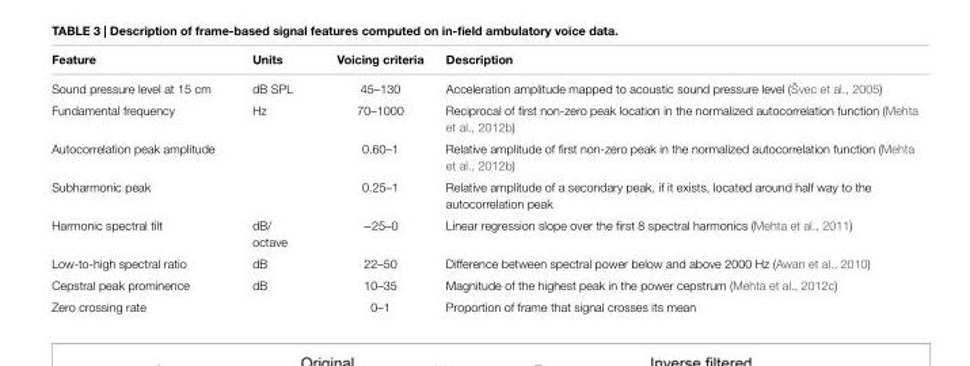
<table><thead><tr><td>Feature</td><td>Units</td><td>Voicing criteria</td><td>Description</td></tr></thead><tbody><tr><td>Sound pressure level at 15 cm</td><td>dB SPL</td><td>45–130</td><td>Acceleration amplitude mapped to acoustic sound pressure level (Švec et al., 2005)</td></tr><tr><td>Fundamental frequency</td><td>Hz</td><td>70–1000</td><td>Reciprocal of first non-zero peak location in the normalized autocorrelation function (Mehta et al., 2012b)</td></tr><tr><td>Autocorrelation peak amplitude</td><td></td><td>0.60–1</td><td>Relative amplitude of first non-zero peak in the normalized autocorrelation function (Mehta et al., 2012b)</td></tr><tr><td>Subharmonic peak</td><td></td><td>0.25–1</td><td>Relative amplitude of a secondary peak, if it exists, located around half way to the autocorrelation peak</td></tr><tr><td>Harmonic spectral tilt</td><td>dB/ octave</td><td>−25–0</td><td>Linear regression slope over the first 8 spectral harmonics (Mehta et al., 2011)</td></tr><tr><td>Low-to-high spectral ratio</td><td>dB</td><td>22–50</td><td>Difference between spectral power below and above 2000 Hz (Awan et al., 2010)</td></tr><tr><td>Cepstral peak prominence</td><td>dB</td><td>10–35</td><td>Magnitude of the highest peak in the power cepstrum (Mehta et al., 2012c)</td></tr><tr><td>Zero crossing rate</td><td></td><td>0–1</td><td>Proportion of frame that signal crosses its mean</td></tr></tbody></table>